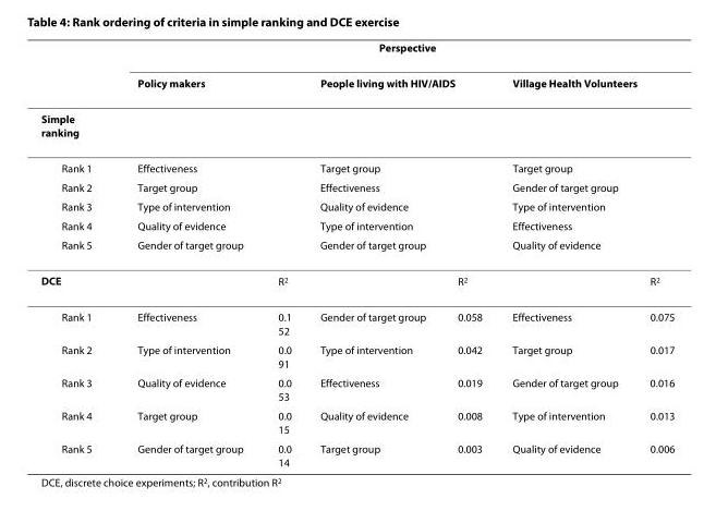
<table><thead><tr><td rowspan="3">Simple ranking</td><td colspan="6">Perspective</td></tr><tr><td colspan="2">Policy makers</td><td colspan="2">People living with HIV/AIDS</td><td colspan="2">Village Health Volunteers</td></tr><tr><td></td><td></td><td></td><td></td><td></td><td></td></tr></thead><tbody><tr><td>Rank 1</td><td>Effectiveness</td><td></td><td>Target group</td><td></td><td>Target group</td><td></td></tr><tr><td>Rank 2</td><td>Target group</td><td></td><td>Effectiveness</td><td></td><td>Gender of target group</td><td></td></tr><tr><td>Rank 3</td><td>Type of intervention</td><td></td><td>Quality of evidence</td><td></td><td>Type of intervention</td><td></td></tr><tr><td>Rank 4</td><td>Quality of evidence</td><td></td><td>Type of intervention</td><td></td><td>Effectiveness</td><td></td></tr><tr><td>Rank 5</td><td>Gender of target group</td><td></td><td>Gender of target group</td><td></td><td>Quality of evidence</td><td></td></tr><tr><td>DCE</td><td></td><td>R<sup>2</sup></td><td></td><td>R<sup>2</sup></td><td></td><td>R<sup>2</sup></td></tr><tr><td>Rank 1</td><td>Effectiveness</td><td>0.1 52</td><td>Gender of target group</td><td>0.058</td><td>Effectiveness</td><td>0.075</td></tr><tr><td>Rank 2</td><td>Type of intervention</td><td>0.0 91</td><td>Type of intervention</td><td>0.042</td><td>Target group</td><td>0.017</td></tr><tr><td>Rank 3</td><td>Quality of evidence</td><td>0.0 53</td><td>Effectiveness</td><td>0.019</td><td>Gender of target group</td><td>0.016</td></tr><tr><td>Rank 4</td><td>Target group</td><td>0.0 15</td><td>Quality of evidence</td><td>0.008</td><td>Type of intervention</td><td>0.013</td></tr><tr><td>Rank 5</td><td>Gender of target group</td><td>0.0 14</td><td>Target group</td><td>0.003</td><td>Quality of evidence</td><td>0.006</td></tr></tbody></table>